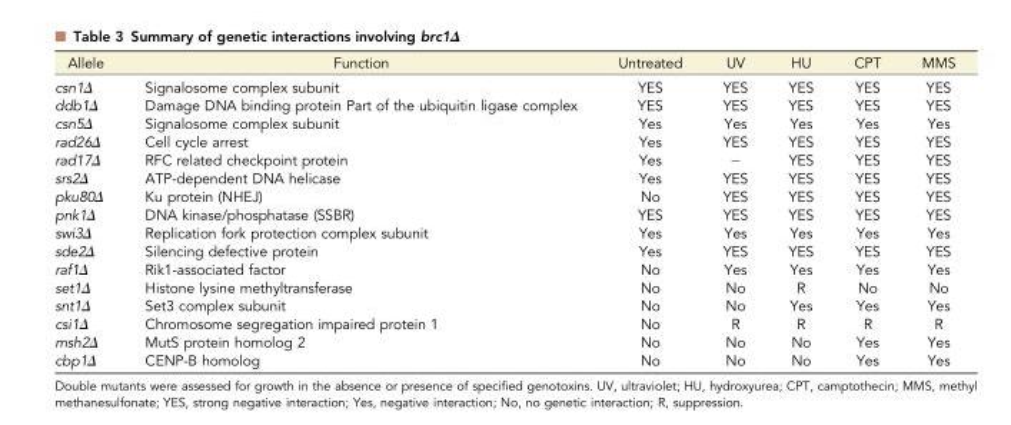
<table><thead><tr><td>Allele</td><td>Function</td><td>Untreated</td><td>UV</td><td>HU</td><td>CPT</td><td>MMS</td></tr></thead><tbody><tr><td>csn1Δ</td><td>Signalosome complex subunit</td><td>YES</td><td>YES</td><td>YES</td><td>YES</td><td>YES</td></tr><tr><td>ddb1Δ</td><td>Damage DNA binding protein Part of the ubiquitin ligase complex</td><td>YES</td><td>YES</td><td>YES</td><td>YES</td><td>YES</td></tr><tr><td>csn5Δ</td><td>Signalosome complex subunit</td><td>Yes</td><td>Yes</td><td>Yes</td><td>Yes</td><td>Yes</td></tr><tr><td>rad26Δ</td><td>Cell cycle arrest</td><td>Yes</td><td>YES</td><td>YES</td><td>YES</td><td>YES</td></tr><tr><td>rad17Δ</td><td>RFC related checkpoint protein</td><td>Yes</td><td>−</td><td>YES</td><td>YES</td><td>YES</td></tr><tr><td>srs2Δ</td><td>ATP-dependent DNA helicase</td><td>Yes</td><td>YES</td><td>YES</td><td>YES</td><td>YES</td></tr><tr><td>pku80Δ</td><td>Ku protein (NHEJ)</td><td>No</td><td>YES</td><td>YES</td><td>YES</td><td>YES</td></tr><tr><td>pnk1Δ</td><td>DNA kinase/phosphatase (SSBR)</td><td>YES</td><td>YES</td><td>YES</td><td>YES</td><td>YES</td></tr><tr><td>swi3Δ</td><td>Replication fork protection complex subunit</td><td>Yes</td><td>Yes</td><td>Yes</td><td>Yes</td><td>Yes</td></tr><tr><td>sde2Δ</td><td>Silencing defective protein</td><td>Yes</td><td>YES</td><td>YES</td><td>YES</td><td>YES</td></tr><tr><td>raf1Δ</td><td>Rik1-associated factor</td><td>No</td><td>Yes</td><td>Yes</td><td>Yes</td><td>Yes</td></tr><tr><td>set1Δ</td><td>Histone lysine methyltransferase</td><td>No</td><td>No</td><td>R</td><td>No</td><td>No</td></tr><tr><td>snt1Δ</td><td>Set3 complex subunit</td><td>No</td><td>No</td><td>Yes</td><td>Yes</td><td>Yes</td></tr><tr><td>csi1Δ</td><td>Chromosome segregation impaired protein 1</td><td>No</td><td>R</td><td>R</td><td>R</td><td>R</td></tr><tr><td>msh2Δ</td><td>MutS protein homolog 2</td><td>No</td><td>No</td><td>No</td><td>Yes</td><td>Yes</td></tr><tr><td>cbp1Δ</td><td>CENP-B homolog</td><td>No</td><td>No</td><td>No</td><td>Yes</td><td>Yes</td></tr></tbody></table>